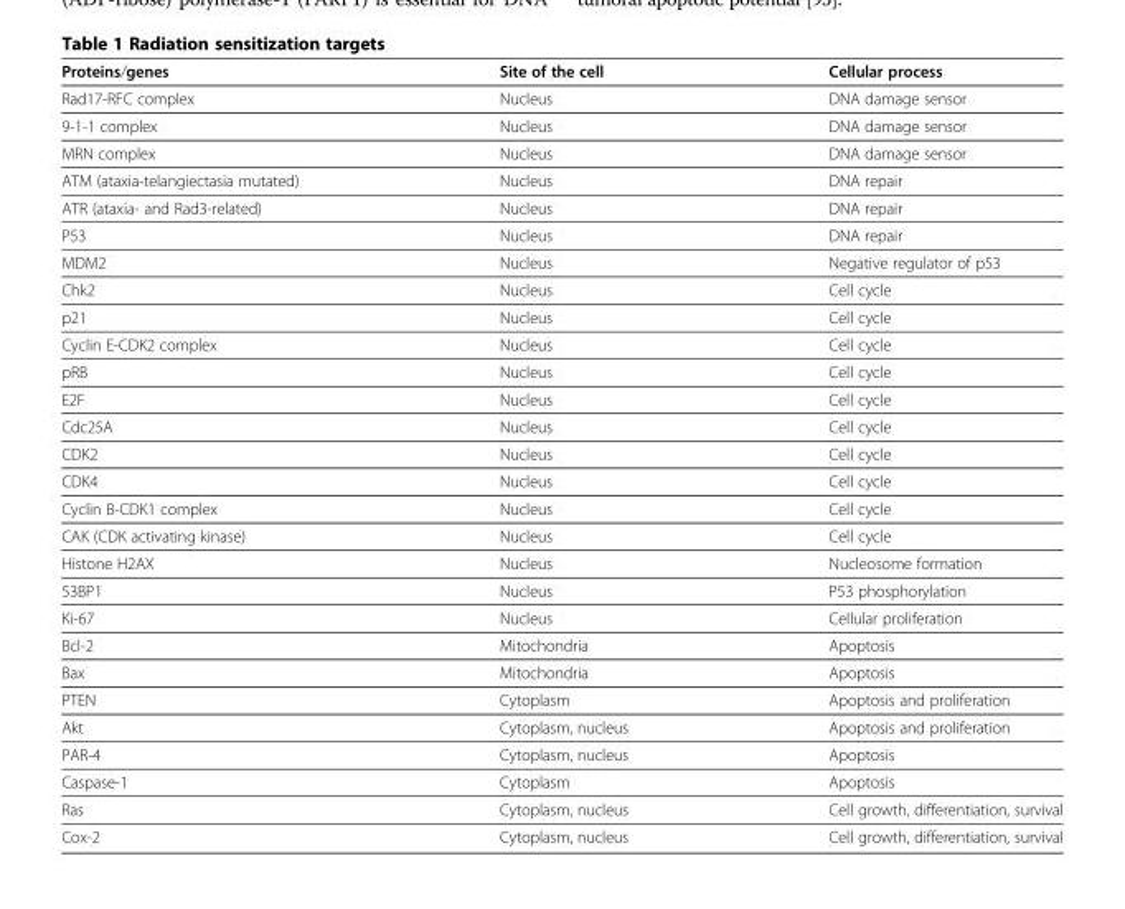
<table><thead><tr><td>Proteins/genes</td><td>Site of the cell</td><td>Cellular process</td></tr></thead><tbody><tr><td>Rad17-RFC complex</td><td>Nucleus</td><td>DNA damage sensor</td></tr><tr><td>9-1-1 complex</td><td>Nucleus</td><td>DNA damage sensor</td></tr><tr><td>MRN complex</td><td>Nucleus</td><td>DNA damage sensor</td></tr><tr><td>ATM (ataxia-telangiectasia mutated)</td><td>Nucleus</td><td>DNA repair</td></tr><tr><td>ATR (ataxia- and Rad3-related)</td><td>Nucleus</td><td>DNA repair</td></tr><tr><td>P53</td><td>Nucleus</td><td>DNA repair</td></tr><tr><td>MDM2</td><td>Nucleus</td><td>Negative regulator of p53</td></tr><tr><td>Chk2</td><td>Nucleus</td><td>Cell cycle</td></tr><tr><td>p21</td><td>Nucleus</td><td>Cell cycle</td></tr><tr><td>Cyclin E-CDK2 complex</td><td>Nucleus</td><td>Cell cycle</td></tr><tr><td>pRB</td><td>Nucleus</td><td>Cell cycle</td></tr><tr><td>E2F</td><td>Nucleus</td><td>Cell cycle</td></tr><tr><td>Cdc25A</td><td>Nucleus</td><td>Cell cycle</td></tr><tr><td>CDK2</td><td>Nucleus</td><td>Cell cycle</td></tr><tr><td>CDK4</td><td>Nucleus</td><td>Cell cycle</td></tr><tr><td>Cyclin B-CDK1 complex</td><td>Nucleus</td><td>Cell cycle</td></tr><tr><td>CAK (CDK activating kinase)</td><td>Nucleus</td><td>Cell cycle</td></tr><tr><td>Histone H2AX</td><td>Nucleus</td><td>Nucleosome formation</td></tr><tr><td>53BP1</td><td>Nucleus</td><td>P53 phosphorylation</td></tr><tr><td>Ki-67</td><td>Nucleus</td><td>Cellular proliferation</td></tr><tr><td>Bcl-2</td><td>Mitochondria</td><td>Apoptosis</td></tr><tr><td>Bax</td><td>Mitochondria</td><td>Apoptosis</td></tr><tr><td>PTEN</td><td>Cytoplasm</td><td>Apoptosis and proliferation</td></tr><tr><td>Akt</td><td>Cytoplasm, nucleus</td><td>Apoptosis and proliferation</td></tr><tr><td>PAR-4</td><td>Cytoplasm, nucleus</td><td>Apoptosis</td></tr><tr><td>Caspase-1</td><td>Cytoplasm</td><td>Apoptosis</td></tr><tr><td>Ras</td><td>Cytoplasm, nucleus</td><td>Cell growth, differentiation, survival</td></tr><tr><td>Cox-2</td><td>Cytoplasm, nucleus</td><td>Cell growth, differentiation, survival</td></tr></tbody></table>